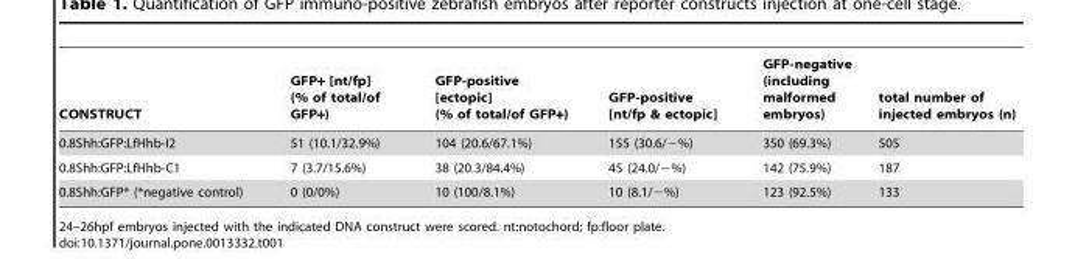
<table><thead><tr><td>CONSTRUCT</td><td>GFP+ [nt/fp] (% of total/of GFP+)</td><td>GFP-positive [ectopic] (% of total/of GFP+)</td><td>GFP-positive [nt/fp &amp; ectopic]</td><td>GFP-negative (including malformed embryos)</td><td>total number of injected embryos (n)</td></tr></thead><tbody><tr><td>0.8Shh:GFP:LfHhb-I2</td><td>51 (10.1/32.9%)</td><td>104 (20.6/67.1%)</td><td>155 (30.6/−%)</td><td>350 (69.3%)</td><td>505</td></tr><tr><td>0.8Shh:GFP:LfHhb-C1</td><td>7 (3.7/15.6%)</td><td>38 (20.3/84.4%)</td><td>45 (24.0/−%)</td><td>142 (75.9%)</td><td>187</td></tr><tr><td>0.8Shh:GFP* (*negative control)</td><td>0 (0/0%)</td><td>10 (100/8.1%)</td><td>10 (8.1/−%)</td><td>123 (92.5%)</td><td>133</td></tr></tbody></table>